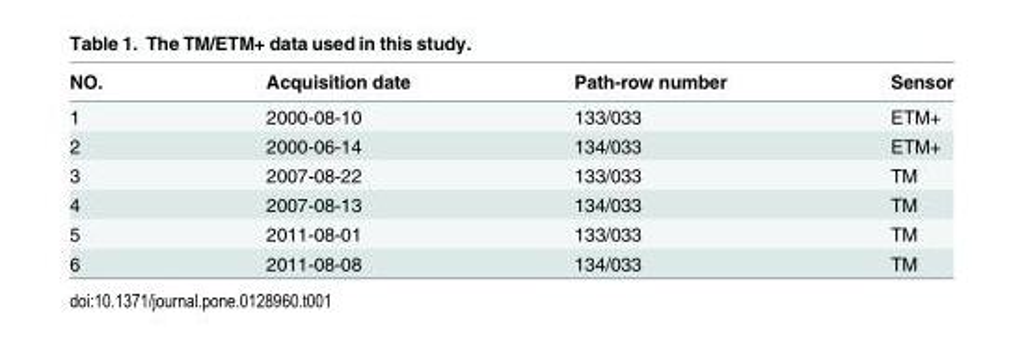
<table><thead><tr><td>NO.</td><td>Acquisition date</td><td>Path-row number</td><td>Sensor</td></tr></thead><tbody><tr><td>1</td><td>2000-08-10</td><td>133/033</td><td>ETM+</td></tr><tr><td>2</td><td>2000-06-14</td><td>134/033</td><td>ETM+</td></tr><tr><td>3</td><td>2007-08-22</td><td>133/033</td><td>TM</td></tr><tr><td>4</td><td>2007-08-13</td><td>134/033</td><td>TM</td></tr><tr><td>5</td><td>2011-08-01</td><td>133/033</td><td>TM</td></tr><tr><td>6</td><td>2011-08-08</td><td>134/033</td><td>TM</td></tr></tbody></table>